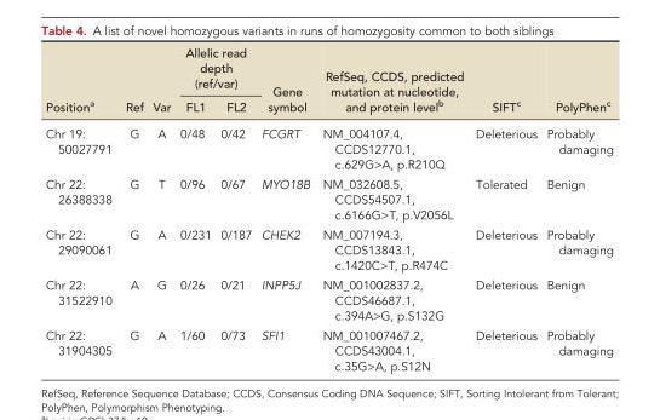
<table><thead><tr><td rowspan="2">Position<sup>a</sup></td><td rowspan="2">Ref</td><td rowspan="2">Var</td><td colspan="2">Allelic read depth (ref/var)</td><td rowspan="2">Gene symbol</td><td rowspan="2">RefSeq, CCDS, predicted mutation at nucleotide, and protein level<sup>b</sup></td><td rowspan="2">SIFT<sup>c</sup></td><td rowspan="2">PolyPhen<sup>c</sup></td></tr><tr><td>FL1</td><td>FL2</td></tr></thead><tbody><tr><td>Chr 19: 50027791</td><td>G</td><td>A</td><td>0/48</td><td>0/42</td><td>FCGRT</td><td>NM_004107.4, CCDS12770.1, c.629G&gt;A, p.R210Q</td><td>Deleterious</td><td>Probably damaging</td></tr><tr><td>Chr 22: 26388338</td><td>G</td><td>T</td><td>0/96</td><td>0/67</td><td>MYO18B</td><td>NM_032608.5, CCDS54507.1, c.6166G&gt;T, p.V2056L</td><td>Tolerated</td><td>Benign</td></tr><tr><td>Chr 22: 29090061</td><td>G</td><td>A</td><td>0/231</td><td>0/187</td><td>CHEK2</td><td>NM_007194.3, CCDS13843.1, c.1420C&gt;T, p.R474C</td><td>Deleterious</td><td>Probably damaging</td></tr><tr><td>Chr 22: 31522910</td><td>A</td><td>G</td><td>0/26</td><td>0/21</td><td>INPP5J</td><td>NM_001002837.2, CCDS46687.1, c.394A&gt;G, p.S132G</td><td>Deleterious</td><td>Benign</td></tr><tr><td>Chr 22: 31904305</td><td>G</td><td>A</td><td>1/60</td><td>0/73</td><td>SFI1</td><td>NM_001007467.2, CCDS43004.1, c.35G&gt;A, p.S12N</td><td>Deleterious</td><td>Probably damaging</td></tr></tbody></table>